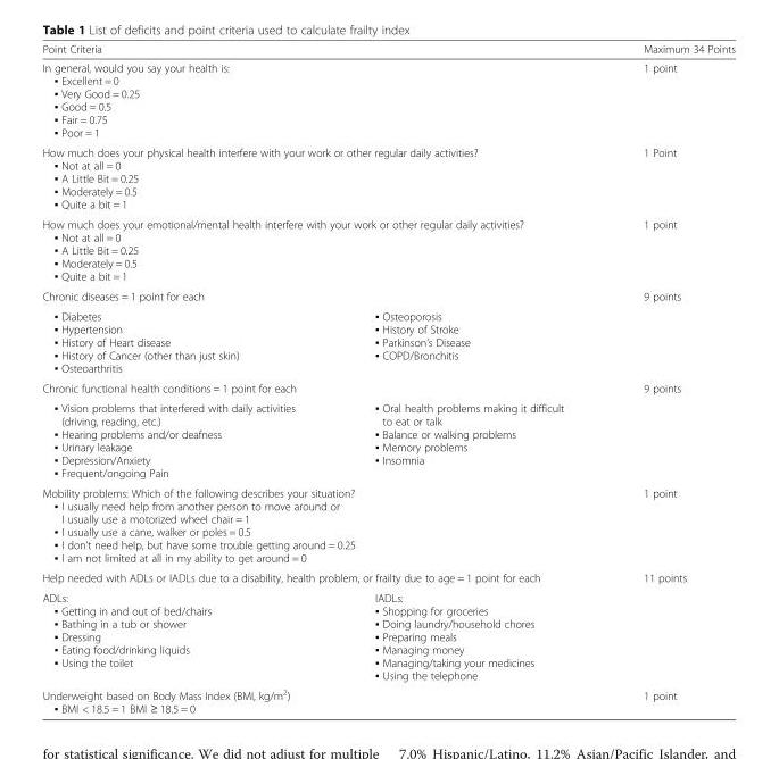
<table><thead><tr><td colspan="2">Point Criteria</td><td>Maximum 34 Points</td></tr></thead><tbody><tr><td colspan="2">In general, would you say your health is: ▪ Excellent = 0 ▪ Very Good = 0.25 ▪ Good = 0.5 ▪ Fair = 0.75 ▪ Poor = 1</td><td>1 point</td></tr><tr><td colspan="2">How much does your physical health interfere with your work or other regular daily activities? ▪ Not at all = 0 ▪ A Little Bit = 0.25 ▪ Moderately = 0.5 ▪ Quite a bit = 1</td><td>1 Point</td></tr><tr><td colspan="2">How much does your emotional/mental health interfere with your work or other regular daily activities? ▪ Not at all = 0 ▪ A Little Bit = 0.25 ▪ Moderately = 0.5 ▪ Quite a bit = 1</td><td>1 point</td></tr><tr><td colspan="2">Chronic diseases = 1 point for each</td><td>9 points</td></tr><tr><td>▪ Diabetes ▪ Hypertension ▪ History of Heart disease ▪ History of Cancer (other than just skin) ▪ Osteoarthritis</td><td>▪ Osteoporosis ▪ History of Stroke ▪ Parkinson’s Disease ▪ COPD/Bronchitis</td><td></td></tr><tr><td colspan="2">Chronic functional health conditions = 1 point for each</td><td>9 points</td></tr><tr><td>▪ Vision problems that interfered with daily activities (driving, reading, etc.) ▪ Hearing problems and/or deafness ▪ Urinary leakage ▪ Depression/Anxiety ▪ Frequent/ongoing Pain</td><td>▪ Oral health problems making it difficult to eat or talk ▪ Balance or walking problems ▪ Memory problems ▪ Insomnia</td><td></td></tr><tr><td colspan="2">Mobility problems: Which of the following describes your situation? ▪ I usually need help from another person to move around or I usually use a motorized wheel chair = 1 ▪ I usually use a cane, walker or poles = 0.5 ▪ I don’t need help, but have some trouble getting around = 0.25 ▪ I am not limited at all in my ability to get around = 0</td><td>1 point</td></tr><tr><td colspan="2">Help needed with ADLs or IADLs due to a disability, health problem, or frailty due to age = 1 point for each</td><td>11 points</td></tr><tr><td>ADLs: ▪ Getting in and out of bed/chairs ▪ Bathing in a tub or shower ▪ Dressing ▪ Eating food/drinking liquids ▪ Using the toilet</td><td>IADLs: ▪ Shopping for groceries ▪ Doing laundry/household chores ▪ Preparing meals ▪ Managing money ▪ Managing/taking your medicines ▪ Using the telephone</td><td></td></tr><tr><td colspan="2">Underweight based on Body Mass Index (BMI, kg/m<sup>2</sup>) ▪ BMI &lt; 18.5 = 1 BMI ≥ 18.5 = 0</td><td>1 point</td></tr></tbody></table>